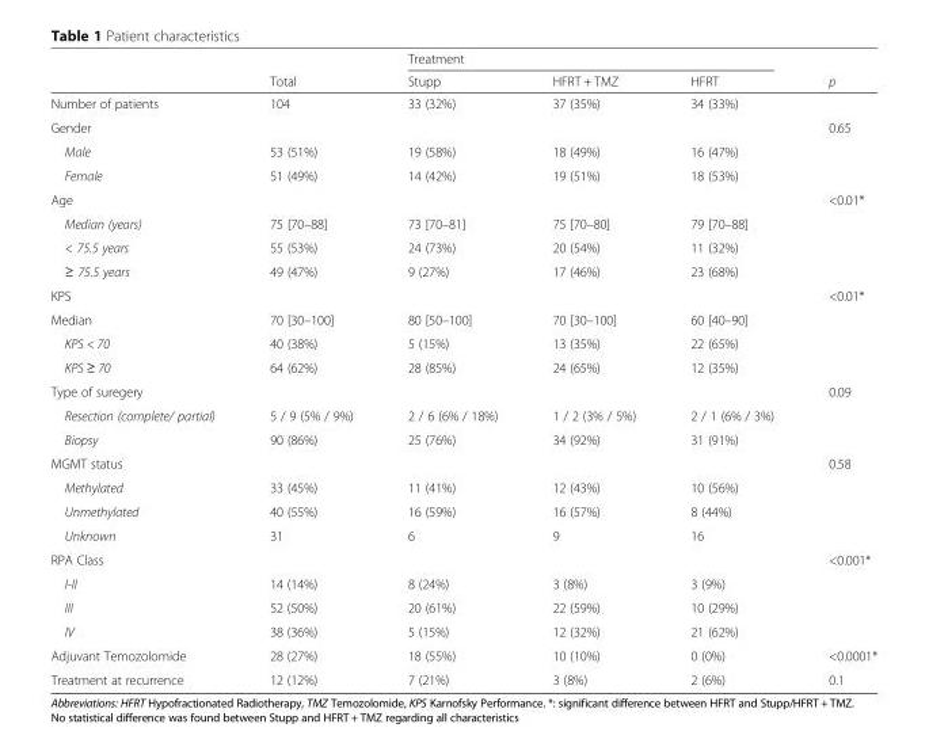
<table><thead><tr><td rowspan="2"></td><td rowspan="2">Total</td><td colspan="3">Treatment</td><td rowspan="2">p</td></tr><tr><td>Stupp</td><td>HFRT + TMZ</td><td>HFRT</td></tr></thead><tbody><tr><td>Number of patients</td><td>104</td><td>33 (32%)</td><td>37 (35%)</td><td>34 (33%)</td><td></td></tr><tr><td>Gender</td><td></td><td></td><td></td><td></td><td>0.65</td></tr><tr><td>Male</td><td>53 (51%)</td><td>19 (58%)</td><td>18 (49%)</td><td>16 (47%)</td><td></td></tr><tr><td>Female</td><td>51 (49%)</td><td>14 (42%)</td><td>19 (51%)</td><td>18 (53%)</td><td></td></tr><tr><td>Age</td><td></td><td></td><td></td><td></td><td>&lt;0.01*</td></tr><tr><td>Median (years)</td><td>75 [70–88]</td><td>73 [70–81]</td><td>75 [70–80]</td><td>79 [70–88]</td><td></td></tr><tr><td>&lt; 75.5 years</td><td>55 (53%)</td><td>24 (73%)</td><td>20 (54%)</td><td>11 (32%)</td><td></td></tr><tr><td>≥ 75.5 years</td><td>49 (47%)</td><td>9 (27%)</td><td>17 (46%)</td><td>23 (68%)</td><td></td></tr><tr><td>KPS</td><td></td><td></td><td></td><td></td><td>&lt;0.01*</td></tr><tr><td>Median</td><td>70 [30–100]</td><td>80 [50–100]</td><td>70 [30–100]</td><td>60 [40–90]</td><td></td></tr><tr><td>KPS &lt; 70</td><td>40 (38%)</td><td>5 (15%)</td><td>13 (35%)</td><td>22 (65%)</td><td></td></tr><tr><td>KPS ≥ 70</td><td>64 (62%)</td><td>28 (85%)</td><td>24 (65%)</td><td>12 (35%)</td><td></td></tr><tr><td>Type of suregery</td><td></td><td></td><td></td><td></td><td>0.09</td></tr><tr><td>Resection (complete/ partial)</td><td>5 / 9 (5% / 9%)</td><td>2 / 6 (6% / 18%)</td><td>1 / 2 (3% / 5%)</td><td>2 / 1 (6% / 3%)</td><td></td></tr><tr><td>Biopsy</td><td>90 (86%)</td><td>25 (76%)</td><td>34 (92%)</td><td>31 (91%)</td><td></td></tr><tr><td>MGMT status</td><td></td><td></td><td></td><td></td><td>0.58</td></tr><tr><td>Methylated</td><td>33 (45%)</td><td>11 (41%)</td><td>12 (43%)</td><td>10 (56%)</td><td></td></tr><tr><td>Unmethylated</td><td>40 (55%)</td><td>16 (59%)</td><td>16 (57%)</td><td>8 (44%)</td><td></td></tr><tr><td>Unknown</td><td>31</td><td>6</td><td>9</td><td>16</td><td></td></tr><tr><td>RPA Class</td><td></td><td></td><td></td><td></td><td>&lt;0.001*</td></tr><tr><td>I-II</td><td>14 (14%)</td><td>8 (24%)</td><td>3 (8%)</td><td>3 (9%)</td><td></td></tr><tr><td>III</td><td>52 (50%)</td><td>20 (61%)</td><td>22 (59%)</td><td>10 (29%)</td><td></td></tr><tr><td>IV</td><td>38 (36%)</td><td>5 (15%)</td><td>12 (32%)</td><td>21 (62%)</td><td></td></tr><tr><td>Adjuvant Temozolomide</td><td>28 (27%)</td><td>18 (55%)</td><td>10 (10%)</td><td>0 (0%)</td><td>&lt;0.0001*</td></tr><tr><td>Treatment at recurrence</td><td>12 (12%)</td><td>7 (21%)</td><td>3 (8%)</td><td>2 (6%)</td><td>0.1</td></tr></tbody></table>